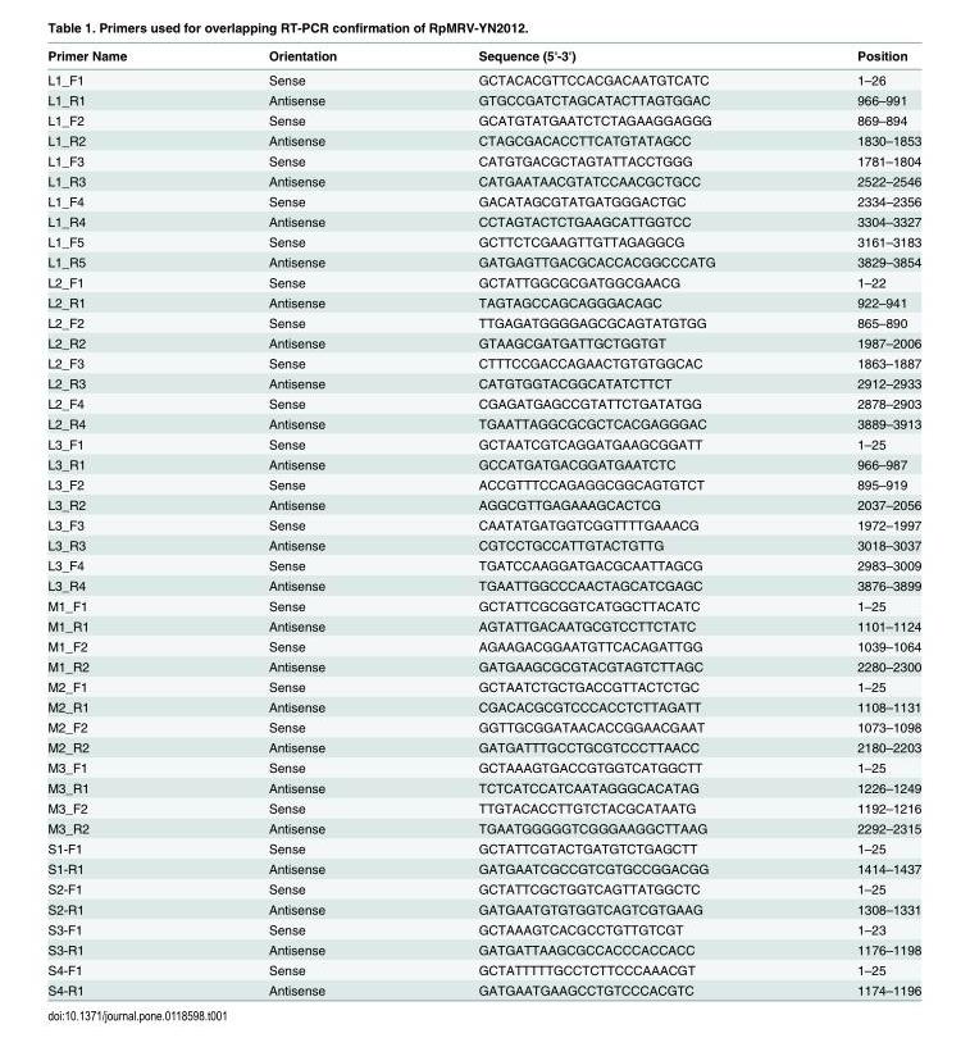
<table><thead><tr><td>Primer Name</td><td>Orientation</td><td>Sequence (5&#x27;-3&#x27;)</td><td>Position</td></tr></thead><tbody><tr><td>L1_F1</td><td>Sense</td><td>GCTACACGTTCCACGACAATGTCATC</td><td>1–26</td></tr><tr><td>L1_R1</td><td>Antisense</td><td>GTGCCGATCTAGCATACTTAGTGGAC</td><td>966–991</td></tr><tr><td>L1_F2</td><td>Sense</td><td>GCATGTATGAATCTCTAGAAGGAGGG</td><td>869–894</td></tr><tr><td>L1_R2</td><td>Antisense</td><td>CTAGCGACACCTTCATGTATAGCC</td><td>1830–1853</td></tr><tr><td>L1_F3</td><td>Sense</td><td>CATGTGACGCTAGTATTACCTGGG</td><td>1781–1804</td></tr><tr><td>L1_R3</td><td>Antisense</td><td>CATGAATAACGTATCCAACGCTGCC</td><td>2522–2546</td></tr><tr><td>L1_F4</td><td>Sense</td><td>GACATAGCGTATGATGGGACTGC</td><td>2334–2356</td></tr><tr><td>L1_R4</td><td>Antisense</td><td>CCTAGTACTCTGAAGCATTGGTCC</td><td>3304–3327</td></tr><tr><td>L1_F5</td><td>Sense</td><td>GCTTCTCGAAGTTGTTAGAGGCG</td><td>3161–3183</td></tr><tr><td>L1_R5</td><td>Antisense</td><td>GATGAGTTGACGCACCACGGCCCATG</td><td>3829–3854</td></tr><tr><td>L2_F1</td><td>Sense</td><td>GCTATTGGCGCGATGGCGAACG</td><td>1–22</td></tr><tr><td>L2_R1</td><td>Antisense</td><td>TAGTAGCCAGCAGGGACAGC</td><td>922–941</td></tr><tr><td>L2_F2</td><td>Sense</td><td>TTGAGATGGGGAGCGCAGTATGTGG</td><td>865–890</td></tr><tr><td>L2_R2</td><td>Antisense</td><td>GTAAGCGATGATTGCTGGTGT</td><td>1987–2006</td></tr><tr><td>L2_F3</td><td>Sense</td><td>CTTTCCGACCAGAACTGTGTGGCAC</td><td>1863–1887</td></tr><tr><td>L2_R3</td><td>Antisense</td><td>CATGTGGTACGGCATATCTTCT</td><td>2912–2933</td></tr><tr><td>L2_F4</td><td>Sense</td><td>CGAGATGAGCCGTATTCTGATATGG</td><td>2878–2903</td></tr><tr><td>L2_R4</td><td>Antisense</td><td>TGAATTAGGCGCGCTCACGAGGGAC</td><td>3889–3913</td></tr><tr><td>L3_F1</td><td>Sense</td><td>GCTAATCGTCAGGATGAAGCGGATT</td><td>1–25</td></tr><tr><td>L3_R1</td><td>Antisense</td><td>GCCATGATGACGGATGAATCTC</td><td>966–987</td></tr><tr><td>L3_F2</td><td>Sense</td><td>ACCGTTTCCAGAGGCGGCAGTGTCT</td><td>895–919</td></tr><tr><td>L3_R2</td><td>Antisense</td><td>AGGCGTTGAGAAAGCACTCG</td><td>2037–2056</td></tr><tr><td>L3_F3</td><td>Sense</td><td>CAATATGATGGTCGGTTTTGAAACG</td><td>1972–1997</td></tr><tr><td>L3_R3</td><td>Antisense</td><td>CGTCCTGCCATTGTACTGTTG</td><td>3018–3037</td></tr><tr><td>L3_F4</td><td>Sense</td><td>TGATCCAAGGATGACGCAATTAGCG</td><td>2983–3009</td></tr><tr><td>L3_R4</td><td>Antisense</td><td>TGAATTGGCCCAACTAGCATCGAGC</td><td>3876–3899</td></tr><tr><td>M1_F1</td><td>Sense</td><td>GCTATTCGCGGTCATGGCTTACATC</td><td>1–25</td></tr><tr><td>M1_R1</td><td>Antisense</td><td>AGTATTGACAATGCGTCCTTCTATC</td><td>1101–1124</td></tr><tr><td>M1_F2</td><td>Sense</td><td>AGAAGACGGAATGTTCACAGATTGG</td><td>1039–1064</td></tr><tr><td>M1_R2</td><td>Antisense</td><td>GATGAAGCGCGTACGTAGTCTTAGC</td><td>2280–2300</td></tr><tr><td>M2_F1</td><td>Sense</td><td>GCTAATCTGCTGACCGTTACTCTGC</td><td>1–25</td></tr><tr><td>M2_R1</td><td>Antisense</td><td>CGACACGCGTCCCACCTCTTAGATT</td><td>1108–1131</td></tr><tr><td>M2_F2</td><td>Sense</td><td>GGTTGCGGATAACACCGGAACGAAT</td><td>1073–1098</td></tr><tr><td>M2_R2</td><td>Antisense</td><td>GATGATTTGCCTGCGTCCCTTAACC</td><td>2180–2203</td></tr><tr><td>M3_F1</td><td>Sense</td><td>GCTAAAGTGACCGTGGTCATGGCTT</td><td>1–25</td></tr><tr><td>M3_R1</td><td>Antisense</td><td>TCTCATCCATCAATAGGGCACATAG</td><td>1226–1249</td></tr><tr><td>M3_F2</td><td>Sense</td><td>TTGTACACCTTGTCTACGCATAATG</td><td>1192–1216</td></tr><tr><td>M3_R2</td><td>Antisense</td><td>TGAATGGGGGTCGGGAAGGCTTAAG</td><td>2292–2315</td></tr><tr><td>S1-F1</td><td>Sense</td><td>GCTATTCGTACTGATGTCTGAGCTT</td><td>1–25</td></tr><tr><td>S1-R1</td><td>Antisense</td><td>GATGAATCGCCGTCGTGCCGGACGG</td><td>1414–1437</td></tr><tr><td>S2-F1</td><td>Sense</td><td>GCTATTCGCTGGTCAGTTATGGCTC</td><td>1–25</td></tr><tr><td>S2-R1</td><td>Antisense</td><td>GATGAATGTGTGGTCAGTCGTGAAG</td><td>1308–1331</td></tr><tr><td>S3-F1</td><td>Sense</td><td>GCTAAAGTCACGCCTGTTGTCGT</td><td>1–23</td></tr><tr><td>S3-R1</td><td>Antisense</td><td>GATGATTAAGCGCCACCCACCACC</td><td>1176–1198</td></tr><tr><td>S4-F1</td><td>Sense</td><td>GCTATTTTTGCCTCTTCCCAAACGT</td><td>1–25</td></tr><tr><td>S4-R1</td><td>Antisense</td><td>GATGAATGAAGCCTGTCCCACGTC</td><td>1174–1196</td></tr></tbody></table>